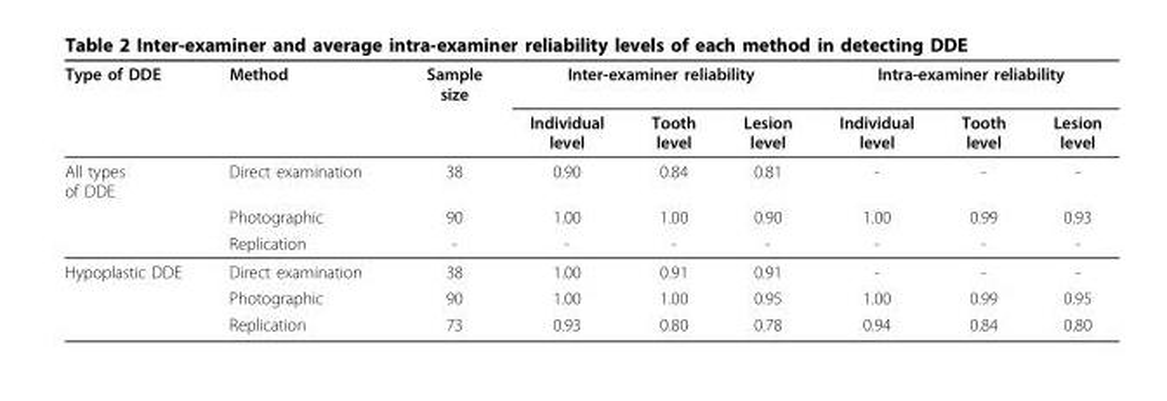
<table><thead><tr><td rowspan="2">Type of DDE</td><td rowspan="2">Method</td><td rowspan="2">Sample size</td><td colspan="3">Inter-examiner reliability</td><td colspan="3">Intra-examiner reliability</td></tr><tr><td>Individual level</td><td>Tooth level</td><td>Lesion level</td><td>Individual level</td><td>Tooth level</td><td>Lesion level</td></tr></thead><tbody><tr><td rowspan="3">All types of DDE</td><td>Direct examination</td><td>38</td><td>0.90</td><td>0.84</td><td>0.81</td><td>-</td><td>-</td><td>-</td></tr><tr><td>Photographic</td><td>90</td><td>1.00</td><td>1.00</td><td>0.90</td><td>1.00</td><td>0.99</td><td>0.93</td></tr><tr><td>Replication</td><td>-</td><td>-</td><td>-</td><td>-</td><td>-</td><td>-</td><td>-</td></tr><tr><td rowspan="3">Hypoplastic DDE</td><td>Direct examination</td><td>38</td><td>1.00</td><td>0.91</td><td>0.91</td><td>-</td><td>-</td><td>-</td></tr><tr><td>Photographic</td><td>90</td><td>1.00</td><td>1.00</td><td>0.95</td><td>1.00</td><td>0.99</td><td>0.95</td></tr><tr><td>Replication</td><td>73</td><td>0.93</td><td>0.80</td><td>0.78</td><td>0.94</td><td>0.84</td><td>0.80</td></tr></tbody></table>